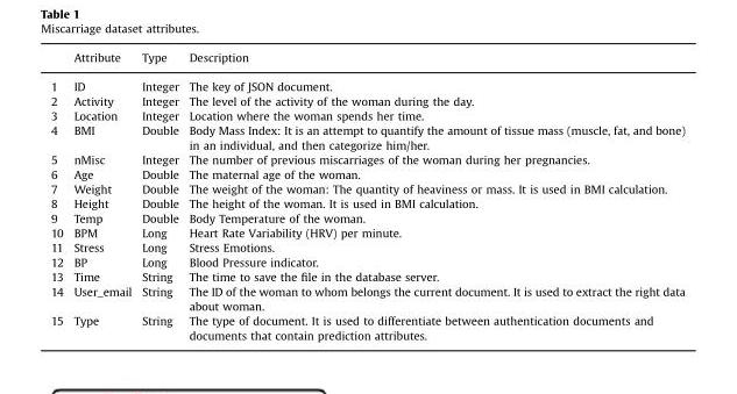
<table><thead><tr><td></td><td>Attribute</td><td>Type</td><td>Description</td></tr></thead><tbody><tr><td>1</td><td>ID</td><td>Integer</td><td>The key of JSON document.</td></tr><tr><td>2</td><td>Activity</td><td>Integer</td><td>The level of the activity of the woman during the day.</td></tr><tr><td>3</td><td>Location</td><td>Integer</td><td>Location where the woman spends her time.</td></tr><tr><td>4</td><td>BMI</td><td>Double</td><td>Body Mass Index: It is an attempt to quantify the amount of tissue mass (muscle, fat, and bone) in an individual, and then categorize him/her.</td></tr><tr><td>5</td><td>nMisc</td><td>Integer</td><td>The number of previous miscarriages of the woman during her pregnancies.</td></tr><tr><td>6</td><td>Age</td><td>Double</td><td>The maternal age of the woman.</td></tr><tr><td>7</td><td>Weight</td><td>Double</td><td>The weight of the woman: The quantity of heaviness or mass. It is used in BMI calculation.</td></tr><tr><td>8</td><td>Height</td><td>Double</td><td>The height of the woman. It is used in BMI calculation.</td></tr><tr><td>9</td><td>Temp</td><td>Double</td><td>Body Temperature of the woman.</td></tr><tr><td>10</td><td>BPM</td><td>Long</td><td>Heart Rate Variability (HRV) per minute.</td></tr><tr><td>11</td><td>Stress</td><td>Long</td><td>Stress Emotions.</td></tr><tr><td>12</td><td>BP</td><td>Long</td><td>Blood Pressure indicator.</td></tr><tr><td>13</td><td>Time</td><td>String</td><td>The time to save the file in the database server.</td></tr><tr><td>14</td><td>User_email</td><td>String</td><td>The ID of the woman to whom belongs the current document. It is used to extract the right data about woman.</td></tr><tr><td>15</td><td>Type</td><td>String</td><td>The type of document. It is used to differentiate between authentication documents and documents that contain prediction attributes.</td></tr></tbody></table>